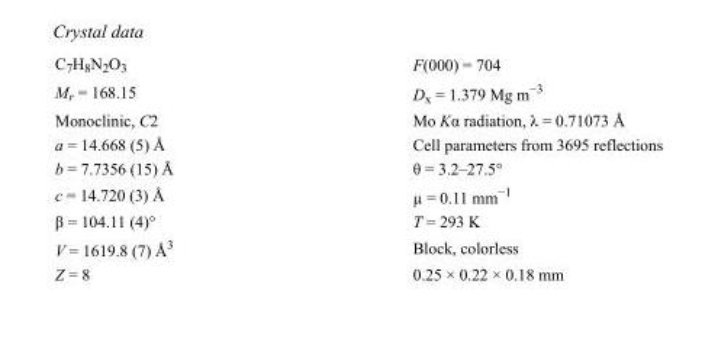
<table><tbody><tr><td>C<sub>7</sub>H<sub>8</sub>N<sub>2</sub>O<sub>3</sub></td><td>F(000) = 704</td></tr><tr><td>M<sub>r</sub> = 168.15</td><td>D<sub>x</sub> = 1.379 Mg m<sup>−3</sup></td></tr><tr><td>Monoclinic, C2</td><td>Mo Kα radiation, λ = 0.71073 Å</td></tr><tr><td>a = 14.668 (5) Å</td><td>Cell parameters from 3695 reflections</td></tr><tr><td>b = 7.7356 (15) Å</td><td>θ = 3.2–27.5°</td></tr><tr><td>c = 14.720 (3) Å</td><td>µ = 0.11 mm<sup>−1</sup></td></tr><tr><td>β = 104.11 (4)°</td><td>T = 293 K</td></tr><tr><td>V = 1619.8 (7) Å<sup>3</sup></td><td>Block, colorless</td></tr><tr><td>Z = 8</td><td>0.25 × 0.22 × 0.18 mm</td></tr></tbody></table>